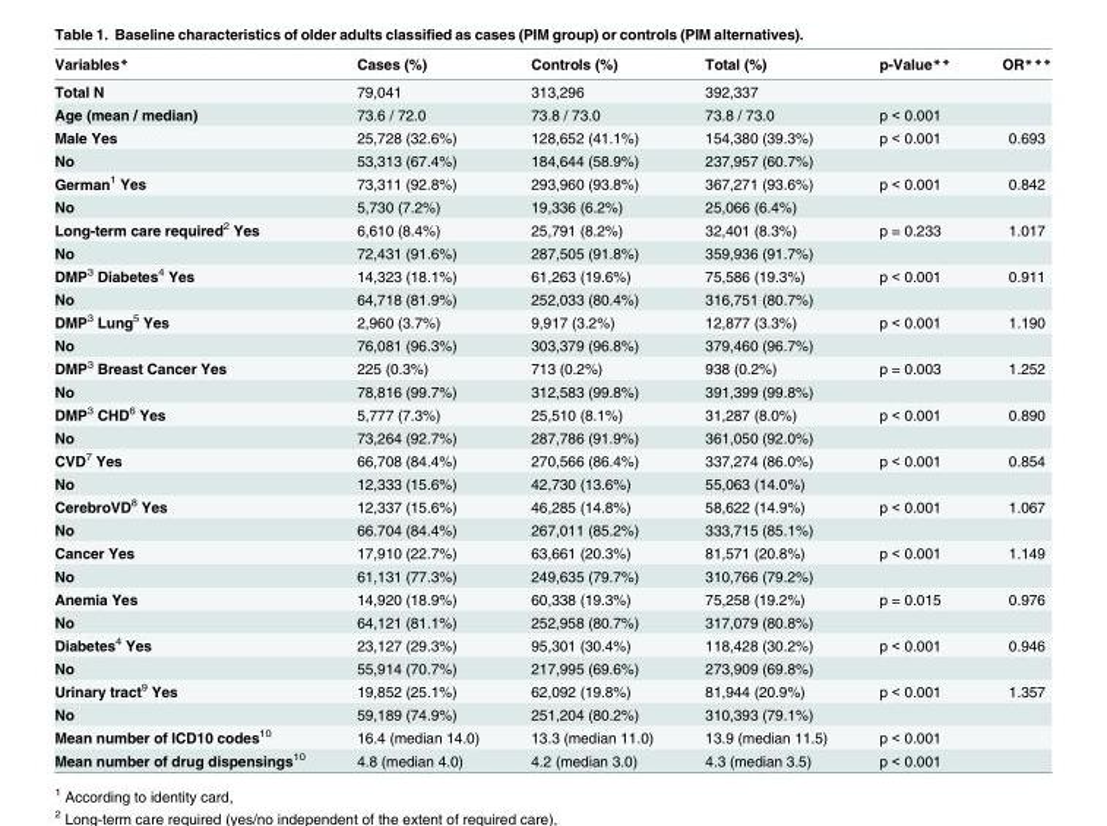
<table><thead><tr><td>Variables*</td><td>Cases (%)</td><td>Controls (%)</td><td>Total (%)</td><td>p-Value**</td><td>OR***</td></tr></thead><tbody><tr><td>Total N</td><td>79,041</td><td>313,296</td><td>392,337</td><td></td><td></td></tr><tr><td>Age (mean / median)</td><td>73.6 / 72.0</td><td>73.8 / 73.0</td><td>73.8 / 73.0</td><td>p &lt; 0.001</td><td></td></tr><tr><td>Male Yes</td><td>25,728 (32.6%)</td><td>128,652 (41.1%)</td><td>154,380 (39.3%)</td><td>p &lt; 0.001</td><td>0.693</td></tr><tr><td>No</td><td>53,313 (67.4%)</td><td>184,644 (58.9%)</td><td>237,957 (60.7%)</td><td></td><td></td></tr><tr><td>German<sup>1</sup> Yes</td><td>73,311 (92.8%)</td><td>293,960 (93.8%)</td><td>367,271 (93.6%)</td><td>p &lt; 0.001</td><td>0.842</td></tr><tr><td>No</td><td>5,730 (7.2%)</td><td>19,336 (6.2%)</td><td>25,066 (6.4%)</td><td></td><td></td></tr><tr><td>Long-term care required<sup>2</sup> Yes</td><td>6,610 (8.4%)</td><td>25,791 (8.2%)</td><td>32,401 (8.3%)</td><td>p = 0.233</td><td>1.017</td></tr><tr><td>No</td><td>72,431 (91.6%)</td><td>287,505 (91.8%)</td><td>359,936 (91.7%)</td><td></td><td></td></tr><tr><td>DMP<sup>3</sup> Diabetes<sup>4</sup> Yes</td><td>14,323 (18.1%)</td><td>61,263 (19.6%)</td><td>75,586 (19.3%)</td><td>p &lt; 0.001</td><td>0.911</td></tr><tr><td>No</td><td>64,718 (81.9%)</td><td>252,033 (80.4%)</td><td>316,751 (80.7%)</td><td></td><td></td></tr><tr><td>DMP<sup>3</sup> Lung<sup>5</sup> Yes</td><td>2,960 (3.7%)</td><td>9,917 (3.2%)</td><td>12,877 (3.3%)</td><td>p &lt; 0.001</td><td>1.190</td></tr><tr><td>No</td><td>76,081 (96.3%)</td><td>303,379 (96.8%)</td><td>379,460 (96.7%)</td><td></td><td></td></tr><tr><td>DMP<sup>3</sup> Breast Cancer Yes</td><td>225 (0.3%)</td><td>713 (0.2%)</td><td>938 (0.2%)</td><td>p = 0.003</td><td>1.252</td></tr><tr><td>No</td><td>78,816 (99.7%)</td><td>312,583 (99.8%)</td><td>391,399 (99.8%)</td><td></td><td></td></tr><tr><td>DMP<sup>3</sup> CHD<sup>6</sup> Yes</td><td>5,777 (7.3%)</td><td>25,510 (8.1%)</td><td>31,287 (8.0%)</td><td>p &lt; 0.001</td><td>0.890</td></tr><tr><td>No</td><td>73,264 (92.7%)</td><td>287,786 (91.9%)</td><td>361,050 (92.0%)</td><td></td><td></td></tr><tr><td>CVD<sup>7</sup> Yes</td><td>66,708 (84.4%)</td><td>270,566 (86.4%)</td><td>337,274 (86.0%)</td><td>p &lt; 0.001</td><td>0.854</td></tr><tr><td>No</td><td>12,333 (15.6%)</td><td>42,730 (13.6%)</td><td>55,063 (14.0%)</td><td></td><td></td></tr><tr><td>CerebroVD<sup>8</sup> Yes</td><td>12,337 (15.6%)</td><td>46,285 (14.8%)</td><td>58,622 (14.9%)</td><td>p &lt; 0.001</td><td>1.067</td></tr><tr><td>No</td><td>66.704 (84.4%)</td><td>267,011 (85.2%)</td><td>333,715 (85.1%)</td><td></td><td></td></tr><tr><td>Cancer Yes</td><td>17,910 (22.7%)</td><td>63,661 (20.3%)</td><td>81,571 (20.8%)</td><td>p &lt; 0.001</td><td>1.149</td></tr><tr><td>No</td><td>61,131 (77.3%)</td><td>249,635 (79.7%)</td><td>310,766 (79.2%)</td><td></td><td></td></tr><tr><td>Anemia Yes</td><td>14,920 (18.9%)</td><td>60,338 (19.3%)</td><td>75,258 (19.2%)</td><td>p = 0.015</td><td>0.976</td></tr><tr><td>No</td><td>64,121 (81.1%)</td><td>252,958 (80.7%)</td><td>317,079 (80.8%)</td><td></td><td></td></tr><tr><td>Diabetes<sup>4</sup> Yes</td><td>23,127 (29.3%)</td><td>95,301 (30.4%)</td><td>118,428 (30.2%)</td><td>p &lt; 0.001</td><td>0.946</td></tr><tr><td>No</td><td>55,914 (70.7%)</td><td>217,995 (69.6%)</td><td>273,909 (69.8%)</td><td></td><td></td></tr><tr><td>Urinary tract<sup>9</sup> Yes</td><td>19,852 (25.1%)</td><td>62,092 (19.8%)</td><td>81,944 (20.9%)</td><td>p &lt; 0.001</td><td>1.357</td></tr><tr><td>No</td><td>59,189 (74.9%)</td><td>251,204 (80.2%)</td><td>310,393 (79.1%)</td><td></td><td></td></tr><tr><td>Mean number of ICD10 codes<sup>10</sup></td><td>16.4 (median 14.0)</td><td>13.3 (median 11.0)</td><td>13.9 (median 11.5)</td><td>p &lt; 0.001</td><td></td></tr><tr><td>Mean number of drug dispensings<sup>10</sup></td><td>4.8 (median 4.0)</td><td>4.2 (median 3.0)</td><td>4.3 (median 3.5)</td><td>p &lt; 0.001</td><td></td></tr></tbody></table>